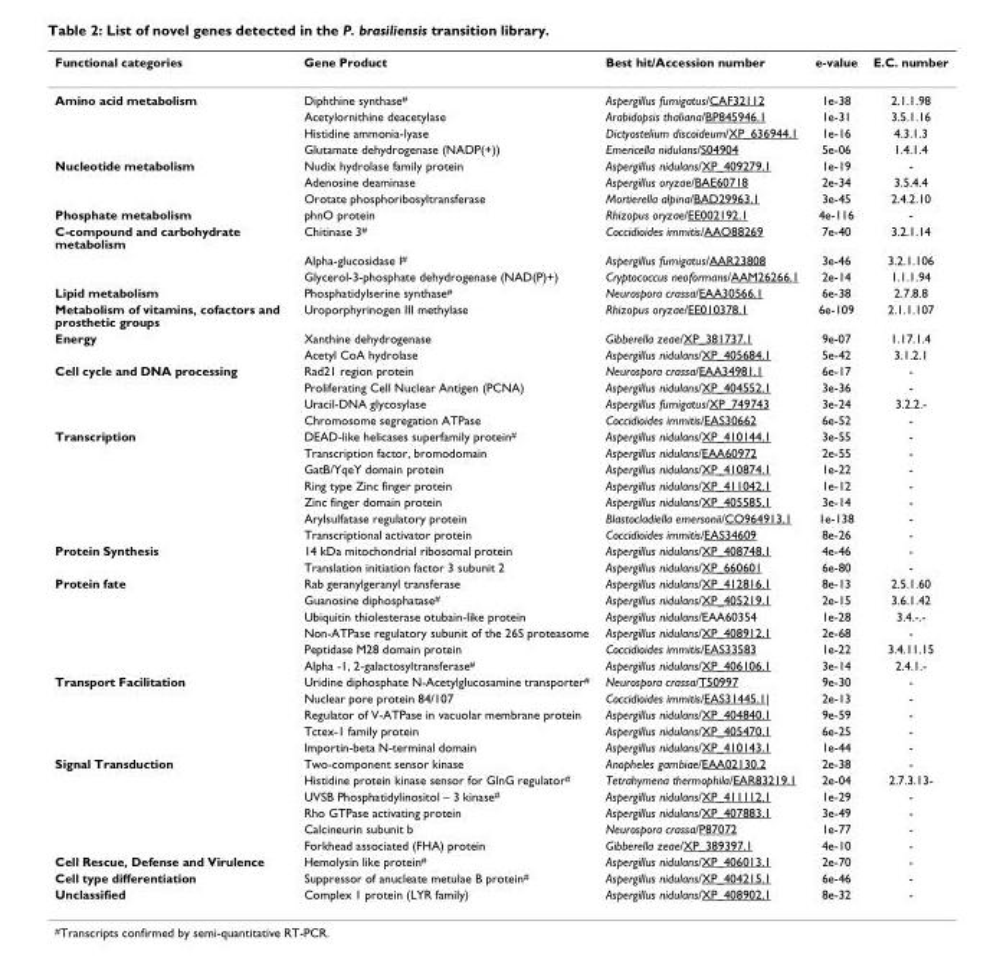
<table><thead><tr><td>Functional categories</td><td>Gene Product</td><td>Best hit/Accession number</td><td>e-value</td><td>E.C. number</td></tr></thead><tbody><tr><td rowspan="4">Amino acid metabolism</td><td>Diphthine synthase#</td><td>Aspergillus fumigatus/CAF32112</td><td>1e-38</td><td>2.1.1.98</td></tr><tr><td>Acetylornithine deacetylase</td><td>Arabidopsis thaliana/BP845946.1</td><td>1e-31</td><td>3.5.1.16</td></tr><tr><td>Histidine ammonia-lyase</td><td>Dictyostelium discoideum/XP_636944.1</td><td>1e-16</td><td>4.3.1.3</td></tr><tr><td>Glutamate dehydrogenase (NADP(+))</td><td>Emericella nidulans/S04904</td><td>5e-06</td><td>1.4.1.4</td></tr><tr><td rowspan="3">Nucleotide metabolism</td><td>Nudix hydrolase family protein</td><td>Aspergillus nidulans/XP_409279.1</td><td>1e-19</td><td>-</td></tr><tr><td>Adenosine deaminase</td><td>Aspergillus oryzae/BAE60718</td><td>2e-34</td><td>3.5.4.4</td></tr><tr><td>Orotate phosphoribosyltransferase</td><td>Mortierella alpina/BAD29963.1</td><td>3e-45</td><td>2.4.2.10</td></tr><tr><td>Phosphate metabolism</td><td>phnO protein</td><td>Rhizopus oryzae/EE002192.1</td><td>4e-116</td><td>-</td></tr><tr><td rowspan="3">C-compound and carbohydrate metabolism</td><td>Chitinase 3#</td><td>Coccidioides immitis/AAO88269</td><td>7e-40</td><td>3.2.1.14</td></tr><tr><td>Alpha-glucosidase I#</td><td>Aspergillus fumigatus/AAR23808</td><td>3e-46</td><td>3.2.1.106</td></tr><tr><td>Glycerol-3-phosphate dehydrogenase (NAD(P)+)</td><td>Cryptococcus neoformans/AAM26266.1</td><td>2e-14</td><td>1.1.1.94</td></tr><tr><td>Lipid metabolism</td><td>Phosphatidylserine synthase#</td><td>Neurospora crassa/EAA30566.1</td><td>6e-38</td><td>2.7.8.8</td></tr><tr><td>Metabolism of vitamins, cofactors and prosthetic groups</td><td>Uroporphyrinogen III methylase</td><td>Rhizopus oryzae/EE010378.1</td><td>6e-109</td><td>2.1.1.107</td></tr><tr><td rowspan="2">Energy</td><td>Xanthine dehydrogenase</td><td>Gibberella zeae/XP_381737.1</td><td>9e-07</td><td>1.17.1.4</td></tr><tr><td>Acetyl CoA hydrolase</td><td>Aspergillus nidulans/XP_405684.1</td><td>5e-42</td><td>3.1.2.1</td></tr><tr><td rowspan="4">Cell cycle and DNA processing</td><td>Rad21 region protein</td><td>Neurospora crassa/EAA34981.1</td><td>6e-17</td><td>-</td></tr><tr><td>Proliferating Cell Nuclear Antigen (PCNA)</td><td>Aspergillus nidulans/XP_404552.1</td><td>3e-36</td><td>-</td></tr><tr><td>Uracil-DNA glycosylase</td><td>Aspergillus fumigatus/XP_749743</td><td>3e-24</td><td>3.2.2.-</td></tr><tr><td>Chromosome segregation ATPase</td><td>Coccidioides immitis/EAS30662</td><td>6e-52</td><td>-</td></tr><tr><td rowspan="7">Transcription</td><td>DEAD-like helicases superfamily protein#</td><td>Aspergillus nidulans/XP_410144.1</td><td>3e-55</td><td>-</td></tr><tr><td>Transcription factor, bromodomain</td><td>Aspergillus nidulans/EAA60972</td><td>2e-55</td><td>-</td></tr><tr><td>GatB/YqeY domain protein</td><td>Aspergillus nidulans/XP_410874.1</td><td>1e-22</td><td>-</td></tr><tr><td>Ring type Zinc finger protein</td><td>Aspergillus nidulans/XP_411042.1</td><td>1e-12</td><td>-</td></tr><tr><td>Zinc finger domain protein</td><td>Aspergillus nidulans/XP_405585.1</td><td>3e-14</td><td>-</td></tr><tr><td>Arylsulfatase regulatory protein</td><td>Blastocladiella emersonii/CO964913.1</td><td>1e-138</td><td>-</td></tr><tr><td>Transcriptional activator protein</td><td>Coccidioides immitis/EAS34609</td><td>8e-26</td><td>-</td></tr><tr><td rowspan="2">Protein Synthesis</td><td>14 kDa mitochondrial ribosomal protein</td><td>Aspergillus nidulans/XP_408748.1</td><td>4e-46</td><td>-</td></tr><tr><td>Translation initiation factor 3 subunit 2</td><td>Aspergillus nidulans/XP_660601</td><td>6e-80</td><td>-</td></tr><tr><td rowspan="6">Protein fate</td><td>Rab geranylgeranyl transferase</td><td>Aspergillus nidulans/XP_412816.1</td><td>8e-13</td><td>2.5.1.60</td></tr><tr><td>Guanosine diphosphatase#</td><td>Aspergillus nidulans/XP_405219.1</td><td>2e-15</td><td>3.6.1.42</td></tr><tr><td>Ubiquitin thiolesterase otubain-like protein</td><td>Aspergillus nidulans/EAA60354</td><td>1e-28</td><td>3.4.-.-</td></tr><tr><td>Non-ATPase regulatory subunit of the 26S proteasome</td><td>Aspergillus nidulans/XP_408912.1</td><td>2e-68</td><td>-</td></tr><tr><td>Peptidase M28 domain protein</td><td>Coccidioides immitis/EAS33583</td><td>1e-22</td><td>3.4.11.15</td></tr><tr><td>Alpha -1, 2-galactosyltransferase#</td><td>Aspergillus nidulans/XP_406106.1</td><td>3e-14</td><td>2.4.1.-</td></tr><tr><td rowspan="5">Transport Facilitation</td><td>Uridine diphosphate N-Acetylglucosamine transporter#</td><td>Neurospora crassa/T50997</td><td>9e-30</td><td>-</td></tr><tr><td>Nuclear pore protein 84/107</td><td>Coccidioides immitis/EAS31445.1|</td><td>2e-13</td><td>-</td></tr><tr><td>Regulator of V-ATPase in vacuolar membrane protein</td><td>Aspergillus nidulans/XP_404840.1</td><td>9e-59</td><td>-</td></tr><tr><td>Tctex-1 family protein</td><td>Aspergillus nidulans/XP_405470.1</td><td>6e-25</td><td>-</td></tr><tr><td>Importin-beta N-terminal domain</td><td>Aspergillus nidulans/XP_410143.1</td><td>1e-44</td><td>-</td></tr><tr><td rowspan="6">Signal Transduction</td><td>Two-component sensor kinase</td><td>Anopheles gambiae/EAA02130.2</td><td>2e-38</td><td>-</td></tr><tr><td>Histidine protein kinase sensor for GlnG regulator#</td><td>Tetrahymena thermophila/EAR83219.1</td><td>2e-04</td><td>2.7.3.13-</td></tr><tr><td>UVSB Phosphatidylinositol – 3 kinase#</td><td>Aspergillus nidulans/XP_411112.1</td><td>1e-29</td><td>-</td></tr><tr><td>Rho GTPase activating protein</td><td>Aspergillus nidulans/XP_407883.1</td><td>3e-49</td><td>-</td></tr><tr><td>Calcineurin subunit b</td><td>Neurospora crassa/P87072</td><td>1e-77</td><td>-</td></tr><tr><td>Forkhead associated (FHA) protein</td><td>Gibberella zeae/XP_389397.1</td><td>4e-10</td><td>-</td></tr><tr><td>Cell Rescue, Defense and Virulence</td><td>Hemolysin like protein#</td><td>Aspergillus nidulans/XP_406013.1</td><td>2e-70</td><td>-</td></tr><tr><td>Cell type differentiation</td><td>Suppressor of anucleate metulae B protein#</td><td>Aspergillus nidulans/XP_404215.1</td><td>6e-46</td><td>-</td></tr><tr><td>Unclassified</td><td>Complex 1 protein (LYR family)</td><td>Aspergillus nidulans/XP_408902.1</td><td>8e-32</td><td>-</td></tr></tbody></table>